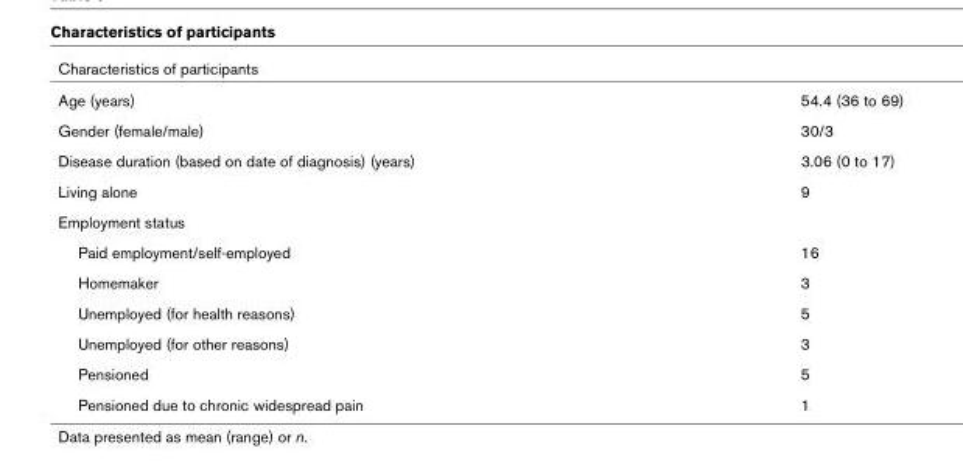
<table><thead><tr><td>Characteristics of participants</td><td></td></tr></thead><tbody><tr><td>Age (years)</td><td>54.4 (36 to 69)</td></tr><tr><td>Gender (female/male)</td><td>30/3</td></tr><tr><td>Disease duration (based on date of diagnosis) (years)</td><td>3.06 (0 to 17)</td></tr><tr><td>Living alone</td><td>9</td></tr><tr><td colspan="2">Employment status</td></tr><tr><td>Paid employment/self-employed</td><td>16</td></tr><tr><td>Homemaker</td><td>3</td></tr><tr><td>Unemployed (for health reasons)</td><td>5</td></tr><tr><td>Unemployed (for other reasons)</td><td>3</td></tr><tr><td>Pensioned</td><td>5</td></tr><tr><td>Pensioned due to chronic widespread pain</td><td>1</td></tr></tbody></table>